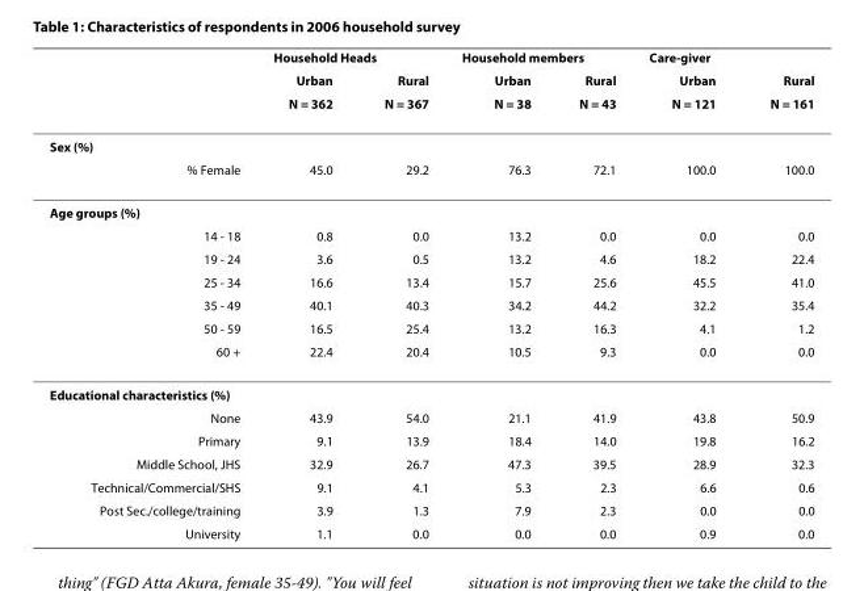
<table><thead><tr><td rowspan="3"></td><td colspan="2">Household Heads</td><td colspan="2">Household members</td><td colspan="2">Care-giver</td></tr><tr><td rowspan="2">Urban N = 362</td><td rowspan="2">Rural N = 367</td><td rowspan="2">Urban N = 38</td><td rowspan="2">Rural N = 43</td><td rowspan="2">Urban N = 121</td><td rowspan="2">Rural N = 161</td></tr><tr></tr></thead><tbody><tr><td colspan="7">Sex (%)</td></tr><tr><td>% Female</td><td>45.0</td><td>29.2</td><td>76.3</td><td>72.1</td><td>100.0</td><td>100.0</td></tr><tr><td colspan="7">Age groups (%)</td></tr><tr><td>14 - 18</td><td>0.8</td><td>0.0</td><td>13.2</td><td>0.0</td><td>0.0</td><td>0.0</td></tr><tr><td>19 - 24</td><td>3.6</td><td>0.5</td><td>13.2</td><td>4.6</td><td>18.2</td><td>22.4</td></tr><tr><td>25 - 34</td><td>16.6</td><td>13.4</td><td>15.7</td><td>25.6</td><td>45.5</td><td>41.0</td></tr><tr><td>35 - 49</td><td>40.1</td><td>40.3</td><td>34.2</td><td>44.2</td><td>32.2</td><td>35.4</td></tr><tr><td>50 - 59</td><td>16.5</td><td>25.4</td><td>13.2</td><td>16.3</td><td>4.1</td><td>1.2</td></tr><tr><td>60 +</td><td>22.4</td><td>20.4</td><td>10.5</td><td>9.3</td><td>0.0</td><td>0.0</td></tr><tr><td colspan="7">Educational characteristics (%)</td></tr><tr><td>None</td><td>43.9</td><td>54.0</td><td>21.1</td><td>41.9</td><td>43.8</td><td>50.9</td></tr><tr><td>Primary</td><td>9.1</td><td>13.9</td><td>18.4</td><td>14.0</td><td>19.8</td><td>16.2</td></tr><tr><td>Middle School, JHS</td><td>32.9</td><td>26.7</td><td>47.3</td><td>39.5</td><td>28.9</td><td>32.3</td></tr><tr><td>Technical/Commercial/SHS</td><td>9.1</td><td>4.1</td><td>5.3</td><td>2.3</td><td>6.6</td><td>0.6</td></tr><tr><td>Post Sec./college/training</td><td>3.9</td><td>1.3</td><td>7.9</td><td>2.3</td><td>0.0</td><td>0.0</td></tr><tr><td>University</td><td>1.1</td><td>0.0</td><td>0.0</td><td>0.0</td><td>0.9</td><td>0.0</td></tr></tbody></table>